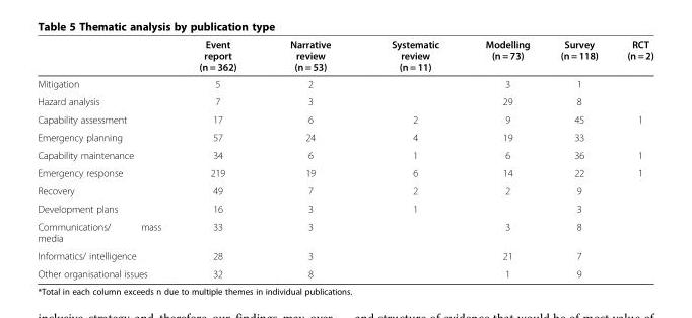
<table><thead><tr><td></td><td>Event report (n = 362)</td><td>Narrative review (n = 53)</td><td>Systematic review (n = 11)</td><td>Modelling (n = 73)</td><td>Survey (n = 118)</td><td>RCT (n = 2)</td></tr></thead><tbody><tr><td>Mitigation</td><td>5</td><td>2</td><td></td><td>3</td><td>1</td><td></td></tr><tr><td>Hazard analysis</td><td>7</td><td>3</td><td></td><td>29</td><td>8</td><td></td></tr><tr><td>Capability assessment</td><td>17</td><td>6</td><td>2</td><td>9</td><td>45</td><td>1</td></tr><tr><td>Emergency planning</td><td>57</td><td>24</td><td>4</td><td>19</td><td>33</td><td></td></tr><tr><td>Capability maintenance</td><td>34</td><td>6</td><td>1</td><td>6</td><td>36</td><td>1</td></tr><tr><td>Emergency response</td><td>219</td><td>19</td><td>6</td><td>14</td><td>22</td><td>1</td></tr><tr><td>Recovery</td><td>49</td><td>7</td><td>2</td><td>2</td><td>9</td><td></td></tr><tr><td>Development plans</td><td>16</td><td>3</td><td>1</td><td></td><td>3</td><td></td></tr><tr><td>Communications/ mass media</td><td>33</td><td>3</td><td></td><td>3</td><td>8</td><td></td></tr><tr><td>Informatics/ intelligence</td><td>28</td><td>3</td><td></td><td>21</td><td>7</td><td></td></tr><tr><td>Other organisational issues</td><td>32</td><td>8</td><td></td><td>1</td><td>9</td><td></td></tr></tbody></table>